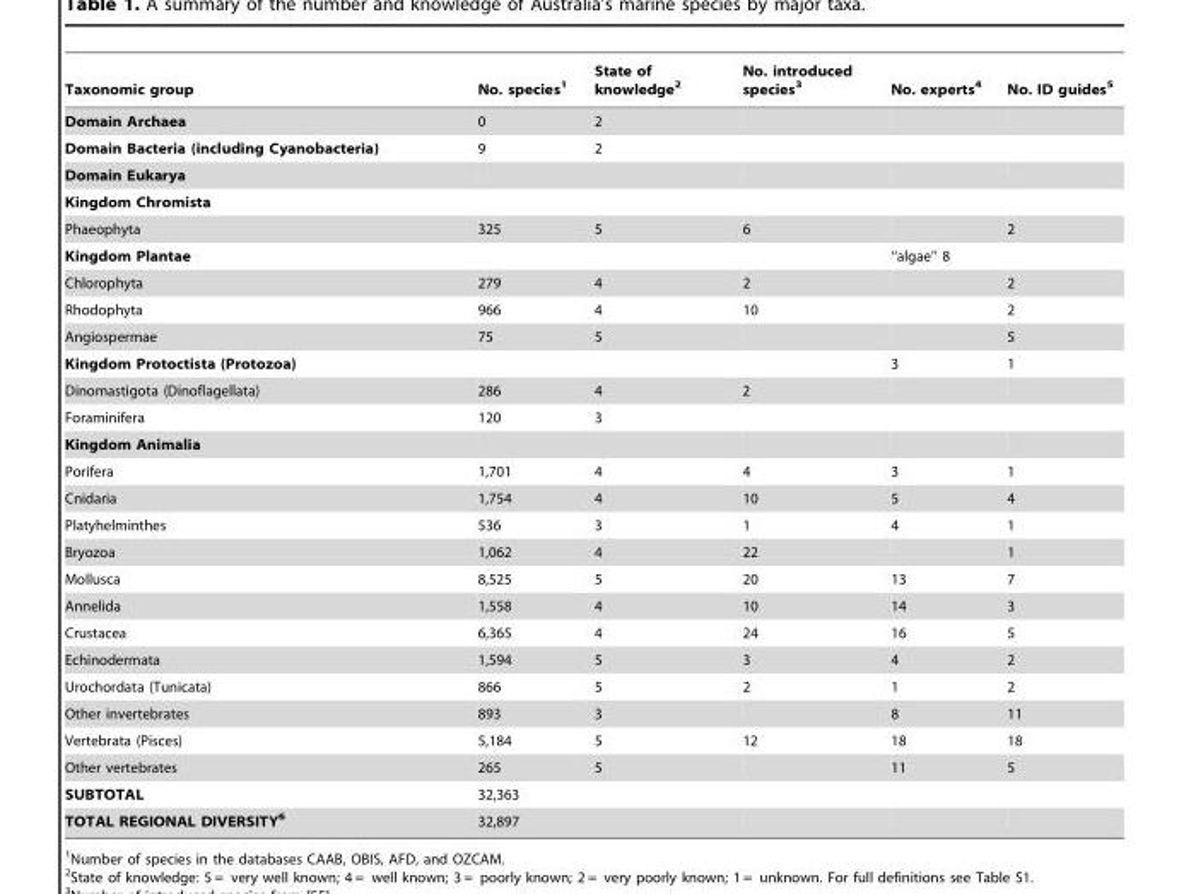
<table><thead><tr><td>Taxonomic group</td><td>No. species<sup>1</sup></td><td>State of knowledge<sup>2</sup></td><td>No. introduced species<sup>3</sup></td><td>No. experts<sup>4</sup></td><td>No. ID guides<sup>5</sup></td></tr></thead><tbody><tr><td>Domain Archaea</td><td>0</td><td>2</td><td></td><td></td><td></td></tr><tr><td>Domain Bacteria (including Cyanobacteria)</td><td>9</td><td>2</td><td></td><td></td><td></td></tr><tr><td colspan="6">Domain Eukarya</td></tr><tr><td colspan="6">Kingdom Chromista</td></tr><tr><td>Phaeophyta</td><td>325</td><td>5</td><td>6</td><td></td><td>2</td></tr><tr><td>Kingdom Plantae</td><td></td><td></td><td></td><td>‘‘algae’’ 8</td><td></td></tr><tr><td>Chlorophyta</td><td>279</td><td>4</td><td>2</td><td></td><td>2</td></tr><tr><td>Rhodophyta</td><td>966</td><td>4</td><td>10</td><td></td><td>2</td></tr><tr><td>Angiospermae</td><td>75</td><td>5</td><td></td><td></td><td>5</td></tr><tr><td>Kingdom Protoctista (Protozoa)</td><td></td><td></td><td></td><td>3</td><td>1</td></tr><tr><td>Dinomastigota (Dinoflagellata)</td><td>286</td><td>4</td><td>2</td><td></td><td></td></tr><tr><td>Foraminifera</td><td>120</td><td>3</td><td></td><td></td><td></td></tr><tr><td colspan="6">Kingdom Animalia</td></tr><tr><td>Porifera</td><td>1,701</td><td>4</td><td>4</td><td>3</td><td>1</td></tr><tr><td>Cnidaria</td><td>1,754</td><td>4</td><td>10</td><td>5</td><td>4</td></tr><tr><td>Platyhelminthes</td><td>536</td><td>3</td><td>1</td><td>4</td><td>1</td></tr><tr><td>Bryozoa</td><td>1,062</td><td>4</td><td>22</td><td></td><td>1</td></tr><tr><td>Mollusca</td><td>8,525</td><td>5</td><td>20</td><td>13</td><td>7</td></tr><tr><td>Annelida</td><td>1,558</td><td>4</td><td>10</td><td>14</td><td>3</td></tr><tr><td>Crustacea</td><td>6,365</td><td>4</td><td>24</td><td>16</td><td>5</td></tr><tr><td>Echinodermata</td><td>1,594</td><td>5</td><td>3</td><td>4</td><td>2</td></tr><tr><td>Urochordata (Tunicata)</td><td>866</td><td>5</td><td>2</td><td>1</td><td>2</td></tr><tr><td>Other invertebrates</td><td>893</td><td>3</td><td></td><td>8</td><td>11</td></tr><tr><td>Vertebrata (Pisces)</td><td>5,184</td><td>5</td><td>12</td><td>18</td><td>18</td></tr><tr><td>Other vertebrates</td><td>265</td><td>5</td><td></td><td>11</td><td>5</td></tr><tr><td>SUBTOTAL</td><td>32,363</td><td></td><td></td><td></td><td></td></tr><tr><td>TOTAL REGIONAL DIVERSITY6</td><td>32,897</td><td></td><td></td><td></td><td></td></tr></tbody></table>